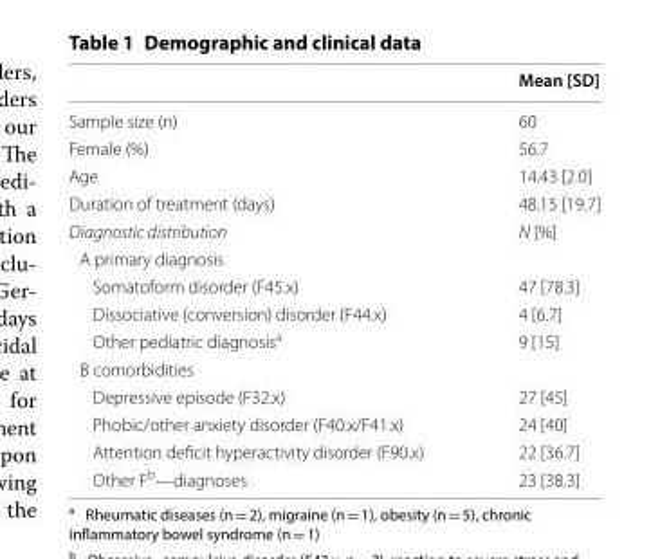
<table><thead><tr><td></td><td>Mean [SD]</td></tr></thead><tbody><tr><td>Sample size (n)</td><td>60</td></tr><tr><td>Female (%)</td><td>56.7</td></tr><tr><td>Age</td><td>14.43 [2.0]</td></tr><tr><td>Duration of treatment (days)</td><td>48.15 [19.7]</td></tr><tr><td>Diagnostic distribution</td><td>N [%]</td></tr><tr><td colspan="2">A primary diagnosis</td></tr><tr><td>Somatoform disorder (F45.x)</td><td>47 [78.3]</td></tr><tr><td>Dissociative (conversion) disorder (F44.x)</td><td>4 [6.7]</td></tr><tr><td>Other pediatric diagnosis<sup>a</sup></td><td>9 [15]</td></tr><tr><td colspan="2">B comorbidities</td></tr><tr><td>Depressive episode (F32.x)</td><td>27 [45]</td></tr><tr><td>Phobic/other anxiety disorder (F40.x/F41.x)</td><td>24 [40]</td></tr><tr><td>Attention deficit hyperactivity disorder (F90.x)</td><td>22 [36.7]</td></tr><tr><td>Other F<sup>b</sup>—diagnoses</td><td>23 [38.3]</td></tr></tbody></table>